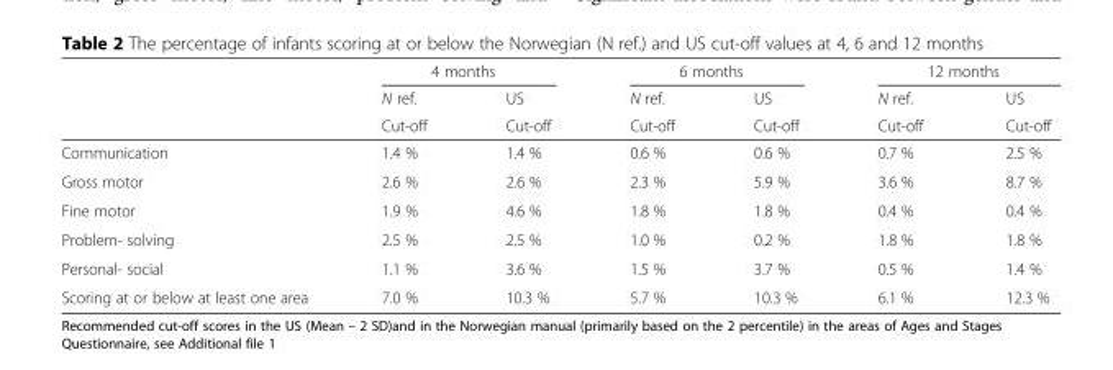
<table><thead><tr><td rowspan="3"></td><td colspan="2">4 months</td><td colspan="2">6 months</td><td colspan="2">12 months</td></tr><tr><td rowspan="2">N ref. Cut-off</td><td rowspan="2">US Cut-off</td><td rowspan="2">N ref. Cut-off</td><td rowspan="2">US Cut-off</td><td rowspan="2">N ref. Cut-off</td><td rowspan="2">US Cut-off</td></tr><tr></tr></thead><tbody><tr><td>Communication</td><td>1.4 %</td><td>1.4 %</td><td>0.6 %</td><td>0.6 %</td><td>0.7 %</td><td>2.5 %</td></tr><tr><td>Gross motor</td><td>2.6 %</td><td>2.6 %</td><td>2.3 %</td><td>5.9 %</td><td>3.6 %</td><td>8.7 %</td></tr><tr><td>Fine motor</td><td>1.9 %</td><td>4.6 %</td><td>1.8 %</td><td>1.8 %</td><td>0.4 %</td><td>0.4 %</td></tr><tr><td>Problem- solving</td><td>2.5 %</td><td>2.5 %</td><td>1.0 %</td><td>0.2 %</td><td>1.8 %</td><td>1.8 %</td></tr><tr><td>Personal- social</td><td>1.1 %</td><td>3.6 %</td><td>1.5 %</td><td>3.7 %</td><td>0.5 %</td><td>1.4 %</td></tr><tr><td>Scoring at or below at least one area</td><td>7.0 %</td><td>10.3 %</td><td>5.7 %</td><td>10.3 %</td><td>6.1 %</td><td>12.3 %</td></tr></tbody></table>